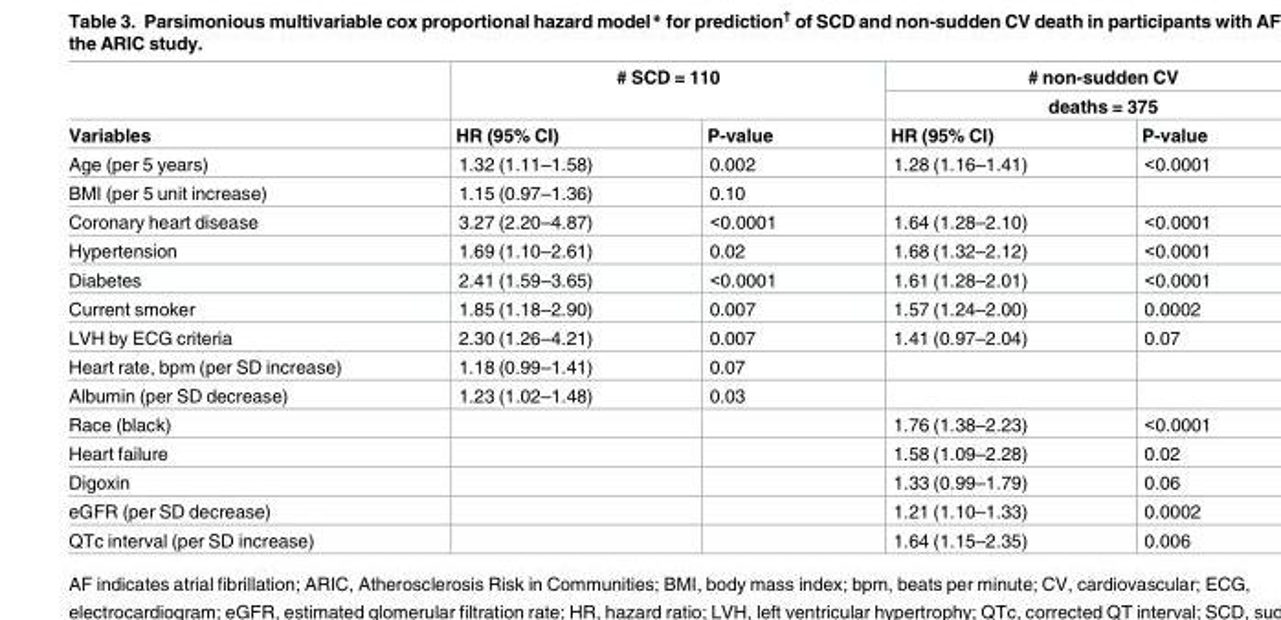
<table><thead><tr><td rowspan="3">Variables</td><td rowspan="2" colspan="2"># SCD = 110</td><td rowspan="2" colspan="2"># non-sudden CV deaths = 375</td></tr><tr></tr><tr><td>HR (95% CI)</td><td>P-value</td><td>HR (95% CI)</td><td>P-value</td></tr></thead><tbody><tr><td>Age (per 5 years)</td><td>1.32 (1.11–1.58)</td><td>0.002</td><td>1.28 (1.16–1.41)</td><td>&lt;0.0001</td></tr><tr><td>BMI (per 5 unit increase)</td><td>1.15 (0.97–1.36)</td><td>0.10</td><td></td><td></td></tr><tr><td>Coronary heart disease</td><td>3.27 (2.20–4.87)</td><td>&lt;0.0001</td><td>1.64 (1.28–2.10)</td><td>&lt;0.0001</td></tr><tr><td>Hypertension</td><td>1.69 (1.10–2.61)</td><td>0.02</td><td>1.68 (1.32–2.12)</td><td>&lt;0.0001</td></tr><tr><td>Diabetes</td><td>2.41 (1.59–3.65)</td><td>&lt;0.0001</td><td>1.61 (1.28–2.01)</td><td>&lt;0.0001</td></tr><tr><td>Current smoker</td><td>1.85 (1.18–2.90)</td><td>0.007</td><td>1.57 (1.24–2.00)</td><td>0.0002</td></tr><tr><td>LVH by ECG criteria</td><td>2.30 (1.26–4.21)</td><td>0.007</td><td>1.41 (0.97–2.04)</td><td>0.07</td></tr><tr><td>Heart rate, bpm (per SD increase)</td><td>1.18 (0.99–1.41)</td><td>0.07</td><td></td><td></td></tr><tr><td>Albumin (per SD decrease)</td><td>1.23 (1.02–1.48)</td><td>0.03</td><td></td><td></td></tr><tr><td>Race (black)</td><td></td><td></td><td>1.76 (1.38–2.23)</td><td>&lt;0.0001</td></tr><tr><td>Heart failure</td><td></td><td></td><td>1.58 (1.09–2.28)</td><td>0.02</td></tr><tr><td>Digoxin</td><td></td><td></td><td>1.33 (0.99–1.79)</td><td>0.06</td></tr><tr><td>eGFR (per SD decrease)</td><td></td><td></td><td>1.21 (1.10–1.33)</td><td>0.0002</td></tr><tr><td>QTc interval (per SD increase)</td><td></td><td></td><td>1.64 (1.15–2.35)</td><td>0.006</td></tr></tbody></table>